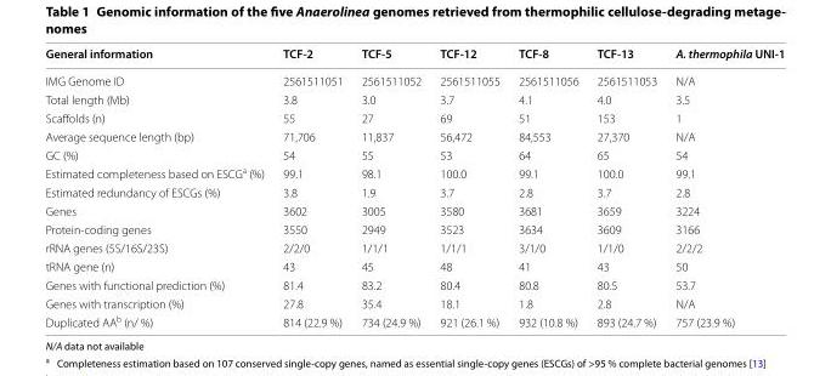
<table><thead><tr><td>General information</td><td>TCF‑2</td><td>TCF‑5</td><td>TCF‑12</td><td>TCF‑8</td><td>TCF‑13</td><td>A. thermophila UNI‑1</td></tr></thead><tbody><tr><td>IMG Genome ID</td><td>2561511051</td><td>2561511052</td><td>2561511055</td><td>2561511056</td><td>2561511053</td><td>N/A</td></tr><tr><td>Total length (Mb)</td><td>3.8</td><td>3.0</td><td>3.7</td><td>4.1</td><td>4.0</td><td>3.5</td></tr><tr><td>Scaffolds (n)</td><td>55</td><td>27</td><td>69</td><td>51</td><td>153</td><td>1</td></tr><tr><td>Average sequence length (bp)</td><td>71,706</td><td>11,837</td><td>56,472</td><td>84,553</td><td>27,370</td><td>N/A</td></tr><tr><td>GC (%)</td><td>54</td><td>55</td><td>53</td><td>64</td><td>65</td><td>54</td></tr><tr><td>Estimated completeness based on ESCG<sup>a</sup> (%)</td><td>99.1</td><td>98.1</td><td>100.0</td><td>99.1</td><td>100.0</td><td>99.1</td></tr><tr><td>Estimated redundancy of ESCGs (%)</td><td>3.8</td><td>1.9</td><td>3.7</td><td>2.8</td><td>3.7</td><td>2.8</td></tr><tr><td>Genes</td><td>3602</td><td>3005</td><td>3580</td><td>3681</td><td>3659</td><td>3224</td></tr><tr><td>Protein-coding genes</td><td>3550</td><td>2949</td><td>3523</td><td>3634</td><td>3609</td><td>3166</td></tr><tr><td>rRNA genes (5S/16S/23S)</td><td>2/2/0</td><td>1/1/1</td><td>1/1/1</td><td>3/1/0</td><td>1/1/0</td><td>2/2/2</td></tr><tr><td>tRNA gene (n)</td><td>43</td><td>45</td><td>48</td><td>41</td><td>43</td><td>50</td></tr><tr><td>Genes with functional prediction (%)</td><td>81.4</td><td>83.2</td><td>80.4</td><td>80.8</td><td>80.5</td><td>53.7</td></tr><tr><td>Genes with transcription (%)</td><td>27.8</td><td>35.4</td><td>18.1</td><td>1.8</td><td>2.8</td><td>N/A</td></tr><tr><td>Duplicated AA<sup>b</sup> (n/ %)</td><td>814 (22.9 %)</td><td>734 (24.9 %)</td><td>921 (26.1 %)</td><td>932 (10.8 %)</td><td>893 (24.7 %)</td><td>757 (23.9 %)</td></tr></tbody></table>